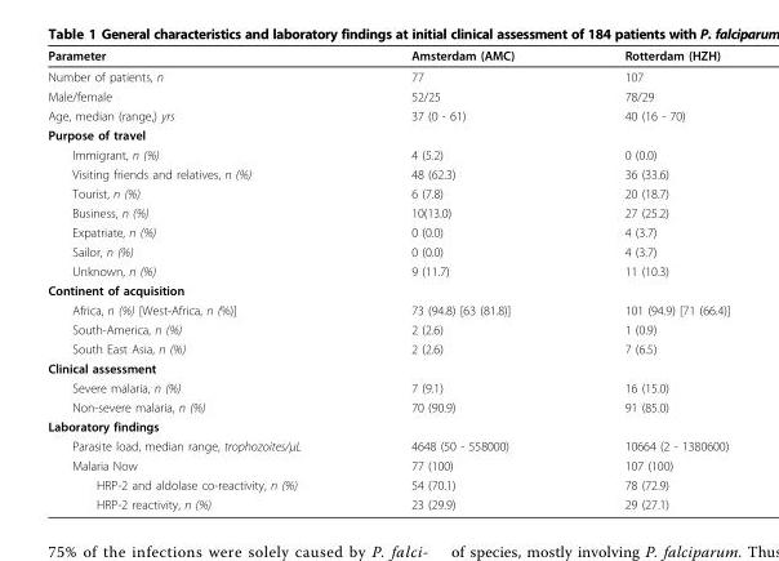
<table><thead><tr><td>Parameter</td><td>Amsterdam (AMC)</td><td>Rotterdam (HZH)</td></tr></thead><tbody><tr><td>Number of patients, n</td><td>77</td><td>107</td></tr><tr><td>Male/female</td><td>52/25</td><td>78/29</td></tr><tr><td>Age, median (range,) yrs</td><td>37 (0 - 61)</td><td>40 (16 - 70)</td></tr><tr><td colspan="3">Purpose of travel</td></tr><tr><td>Immigrant, n (%)</td><td>4 (5.2)</td><td>0 (0.0)</td></tr><tr><td>Visiting friends and relatives, n (%)</td><td>48 (62.3)</td><td>36 (33.6)</td></tr><tr><td>Tourist, n (%)</td><td>6 (7.8)</td><td>20 (18.7)</td></tr><tr><td>Business, n (%)</td><td>10(13.0)</td><td>27 (25.2)</td></tr><tr><td>Expatriate, n (%)</td><td>0 (0.0)</td><td>4 (3.7)</td></tr><tr><td>Sailor, n (%)</td><td>0 (0.0)</td><td>4 (3.7)</td></tr><tr><td>Unknown, n (%)</td><td>9 (11.7)</td><td>11 (10.3)</td></tr><tr><td colspan="3">Continent of acquisition</td></tr><tr><td>Africa, n (%) [West-Africa, n (%)]</td><td>73 (94.8) [63 (81.8)]</td><td>101 (94.9) [71 (66.4)]</td></tr><tr><td>South-America, n (%)</td><td>2 (2.6)</td><td>1 (0.9)</td></tr><tr><td>South East Asia, n (%)</td><td>2 (2.6)</td><td>7 (6.5)</td></tr><tr><td colspan="3">Clinical assessment</td></tr><tr><td>Severe malaria, n (%)</td><td>7 (9.1)</td><td>16 (15.0)</td></tr><tr><td>Non-severe malaria, n (%)</td><td>70 (90.9)</td><td>91 (85.0)</td></tr><tr><td colspan="3">Laboratory findings</td></tr><tr><td>Parasite load, median range, trophozoites/μL</td><td>4648 (50 - 558000)</td><td>10664 (2 - 1380600)</td></tr><tr><td>Malaria Now</td><td>77 (100)</td><td>107 (100)</td></tr><tr><td>HRP-2 and aldolase co-reactivity, n (%)</td><td>54 (70.1)</td><td>78 (72.9)</td></tr><tr><td>HRP-2 reactivity, n (%)</td><td>23 (29.9)</td><td>29 (27.1)</td></tr></tbody></table>